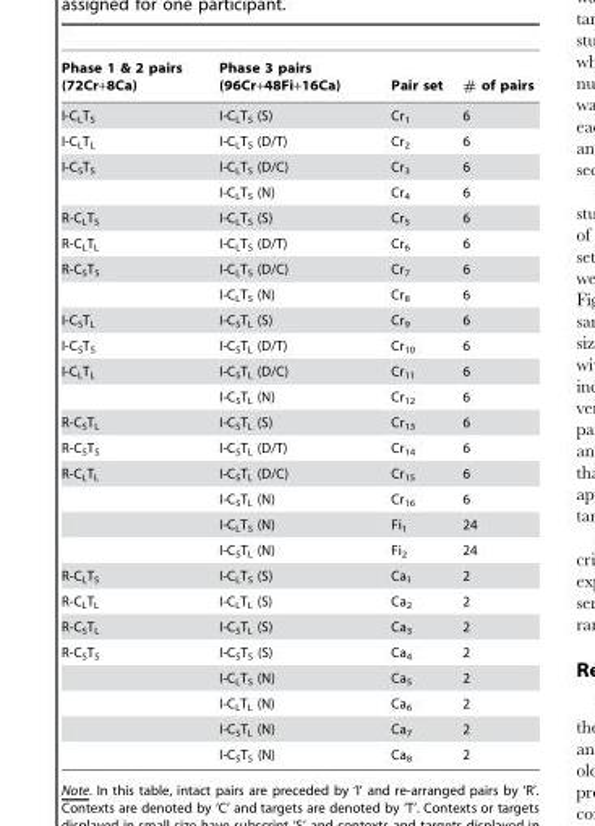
<table><thead><tr><td>Phase 1 &amp; 2 pairs (72Cr+8Ca)</td><td>Phase 3 pairs (96Cr+48Fi+16Ca)</td><td>Pair set</td><td># of pairs</td></tr></thead><tbody><tr><td>I-C<sub>L</sub>T<sub>S</sub></td><td>I-C<sub>L</sub>T<sub>S</sub> (S)</td><td>Cr<sub>1</sub></td><td>6</td></tr><tr><td>I-C<sub>L</sub>T<sub>L</sub></td><td>I-C<sub>L</sub>T<sub>S</sub> (D/T)</td><td>Cr<sub>2</sub></td><td>6</td></tr><tr><td rowspan="2">I-C<sub>S</sub>T<sub>S</sub></td><td>I-C<sub>L</sub>T<sub>S</sub> (D/C)</td><td>Cr<sub>3</sub></td><td>6</td></tr><tr><td>I-C<sub>L</sub>T<sub>S</sub> (N)</td><td>Cr<sub>4</sub></td><td>6</td></tr><tr><td>R-C<sub>L</sub>T<sub>S</sub></td><td>I-C<sub>L</sub>T<sub>S</sub> (S)</td><td>Cr<sub>5</sub></td><td>6</td></tr><tr><td>R-C<sub>L</sub>T<sub>L</sub></td><td>I-C<sub>L</sub>T<sub>S</sub> (D/T)</td><td>Cr<sub>6</sub></td><td>6</td></tr><tr><td rowspan="2">R-C<sub>S</sub>T<sub>S</sub></td><td>I-C<sub>L</sub>T<sub>S</sub> (D/C)</td><td>Cr<sub>7</sub></td><td>6</td></tr><tr><td>I-C<sub>L</sub>T<sub>S</sub> (N)</td><td>Cr<sub>8</sub></td><td>6</td></tr><tr><td>I-C<sub>S</sub>T<sub>L</sub></td><td>I-C<sub>S</sub>T<sub>L</sub> (S)</td><td>Cr<sub>9</sub></td><td>6</td></tr><tr><td>I-C<sub>S</sub>T<sub>S</sub></td><td>I-C<sub>S</sub>T<sub>L</sub> (D/T)</td><td>Cr<sub>10</sub></td><td>6</td></tr><tr><td rowspan="2">I-C<sub>L</sub>T<sub>L</sub></td><td>I-C<sub>S</sub>T<sub>L</sub> (D/C)</td><td>Cr<sub>11</sub></td><td>6</td></tr><tr><td>I-C<sub>S</sub>T<sub>L</sub> (N)</td><td>Cr<sub>12</sub></td><td>6</td></tr><tr><td>R-C<sub>S</sub>T<sub>L</sub></td><td>I-C<sub>S</sub>T<sub>L</sub> (S)</td><td>Cr<sub>13</sub></td><td>6</td></tr><tr><td>R-C<sub>S</sub>T<sub>S</sub></td><td>I-C<sub>S</sub>T<sub>L</sub> (D/T)</td><td>Cr<sub>14</sub></td><td>6</td></tr><tr><td rowspan="4">R-C<sub>L</sub>T<sub>L</sub></td><td>I-C<sub>S</sub>T<sub>L</sub> (D/C)</td><td>Cr<sub>15</sub></td><td>6</td></tr><tr><td>I-C<sub>S</sub>T<sub>L</sub> (N)</td><td>Cr<sub>16</sub></td><td>6</td></tr><tr><td>I-C<sub>L</sub>T<sub>S</sub> (N)</td><td>Fi<sub>1</sub></td><td>24</td></tr><tr><td>I-C<sub>S</sub>T<sub>L</sub> (N)</td><td>Fi<sub>2</sub></td><td>24</td></tr><tr><td>R-C<sub>L</sub>T<sub>S</sub></td><td>I-C<sub>L</sub>T<sub>S</sub> (S)</td><td>Ca<sub>1</sub></td><td>2</td></tr><tr><td>R-C<sub>L</sub>T<sub>L</sub></td><td>I-C<sub>L</sub>T<sub>L</sub> (S)</td><td>Ca<sub>2</sub></td><td>2</td></tr><tr><td>R-C<sub>S</sub>T<sub>L</sub></td><td>I-C<sub>S</sub>T<sub>L</sub> (S)</td><td>Ca<sub>3</sub></td><td>2</td></tr><tr><td rowspan="5">R-C<sub>S</sub>T<sub>S</sub></td><td>I-C<sub>S</sub>T<sub>S</sub> (S)</td><td>Ca<sub>4</sub></td><td>2</td></tr><tr><td>I-C<sub>L</sub>T<sub>S</sub> (N)</td><td>Ca<sub>5</sub></td><td>2</td></tr><tr><td>I-C<sub>L</sub>T<sub>L</sub> (N)</td><td>Ca<sub>6</sub></td><td>2</td></tr><tr><td>I-C<sub>S</sub>T<sub>L</sub> (N)</td><td>Ca<sub>7</sub></td><td>2</td></tr><tr><td>I-C<sub>S</sub>T<sub>S</sub> (N)</td><td>Ca<sub>8</sub></td><td>2</td></tr></tbody></table>